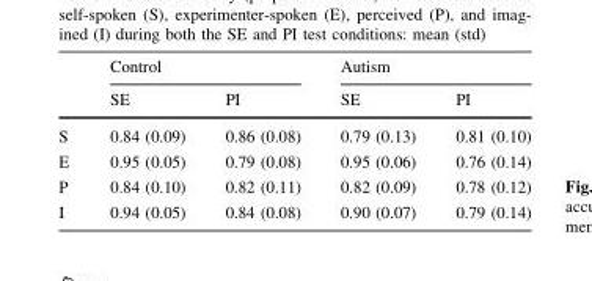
<table><thead><tr><td rowspan="2"></td><td colspan="2">Control</td><td colspan="2">Autism</td></tr><tr><td>SE</td><td>PI</td><td>SE</td><td>PI</td></tr></thead><tbody><tr><td>S</td><td>0.84 (0.09)</td><td>0.86 (0.08)</td><td>0.79 (0.13)</td><td>0.81 (0.10)</td></tr><tr><td>E</td><td>0.95 (0.05)</td><td>0.79 (0.08)</td><td>0.95 (0.06)</td><td>0.76 (0.14)</td></tr><tr><td>P</td><td>0.84 (0.10)</td><td>0.82 (0.11)</td><td>0.82 (0.09)</td><td>0.78 (0.12)</td></tr><tr><td>I</td><td>0.94 (0.05)</td><td>0.84 (0.08)</td><td>0.90 (0.07)</td><td>0.79 (0.14)</td></tr></tbody></table>